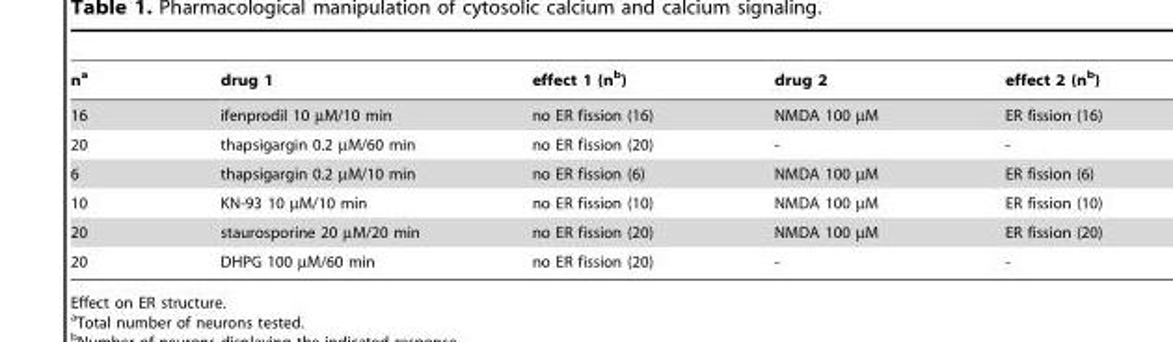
<table><thead><tr><td>n<sup>a</sup></td><td>drug 1</td><td>effect 1 (n<sup>b</sup>)</td><td>drug 2</td><td>effect 2 (n<sup>b</sup>)</td></tr></thead><tbody><tr><td>16</td><td>ifenprodil 10 µM/10 min</td><td>no ER fission (16)</td><td>NMDA 100 µM</td><td>ER fission (16)</td></tr><tr><td>20</td><td>thapsigargin 0.2 µM/60 min</td><td>no ER fission (20)</td><td>-</td><td>-</td></tr><tr><td>6</td><td>thapsigargin 0.2 µM/10 min</td><td>no ER fission (6)</td><td>NMDA 100 µM</td><td>ER fission (6)</td></tr><tr><td>10</td><td>KN-93 10 µM/10 min</td><td>no ER fission (10)</td><td>NMDA 100 µM</td><td>ER fission (10)</td></tr><tr><td>20</td><td>staurosporine 20 µM/20 min</td><td>no ER fission (20)</td><td>NMDA 100 µM</td><td>ER fission (20)</td></tr><tr><td>20</td><td>DHPG 100 µM/60 min</td><td>no ER fission (20)</td><td>-</td><td>-</td></tr></tbody></table>